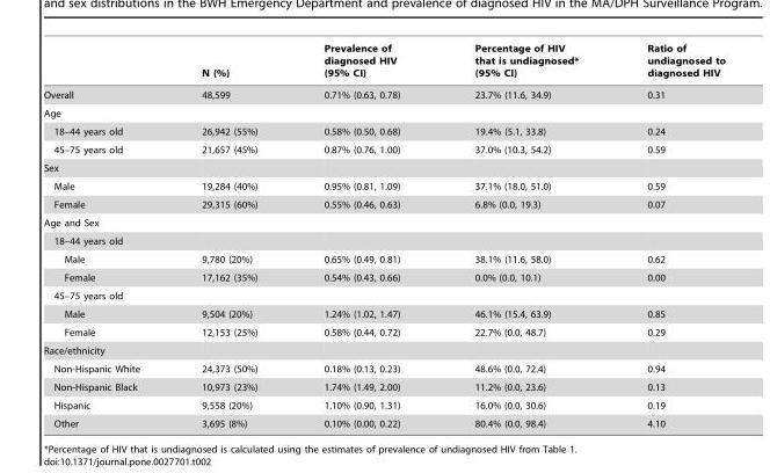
<table><thead><tr><td></td><td>N (%)</td><td>Prevalence of diagnosed HIV (95% CI)</td><td>Percentage of HIV that is undiagnosed* (95% CI)</td><td>Ratio of undiagnosed to diagnosed HIV</td></tr></thead><tbody><tr><td>Overall</td><td>48,599</td><td>0.71% (0.63, 0.78)</td><td>23.7% (11.6, 34.9)</td><td>0.31</td></tr><tr><td colspan="5">Age</td></tr><tr><td>18–44 years old</td><td>26,942 (55%)</td><td>0.58% (0.50, 0.68)</td><td>19.4% (5.1, 33.8)</td><td>0.24</td></tr><tr><td>45–75 years old</td><td>21,657 (45%)</td><td>0.87% (0.76, 1.00)</td><td>37.0% (10.3, 54.2)</td><td>0.59</td></tr><tr><td colspan="5">Sex</td></tr><tr><td>Male</td><td>19,284 (40%)</td><td>0.95% (0.81, 1.09)</td><td>37.1% (18.0, 51.0)</td><td>0.59</td></tr><tr><td>Female</td><td>29,315 (60%)</td><td>0.55% (0.46, 0.63)</td><td>6.8% (0.0, 19.3)</td><td>0.07</td></tr><tr><td colspan="5">Age and Sex</td></tr><tr><td colspan="5">18–44 years old</td></tr><tr><td>Male</td><td>9,780 (20%)</td><td>0.65% (0.49, 0.81)</td><td>38.1% (11.6, 58.0)</td><td>0.62</td></tr><tr><td>Female</td><td>17,162 (35%)</td><td>0.54% (0.43, 0.66)</td><td>0.0% (0.0, 10.1)</td><td>0.00</td></tr><tr><td colspan="5">45–75 years old</td></tr><tr><td>Male</td><td>9,504 (20%)</td><td>1.24% (1.02, 1.47)</td><td>46.1% (15.4, 63.9)</td><td>0.85</td></tr><tr><td>Female</td><td>12,153 (25%)</td><td>0.58% (0.44, 0.72)</td><td>22.7% (0.0, 48.7)</td><td>0.29</td></tr><tr><td colspan="5">Race/ethnicity</td></tr><tr><td>Non-Hispanic White</td><td>24,373 (50%)</td><td>0.18% (0.13, 0.23)</td><td>48.6% (0.0, 72.4)</td><td>0.94</td></tr><tr><td>Non-Hispanic Black</td><td>10,973 (23%)</td><td>1.74% (1.49, 2.00)</td><td>11.2% (0.0, 23.6)</td><td>0.13</td></tr><tr><td>Hispanic</td><td>9,558 (20%)</td><td>1.10% (0.90, 1.31)</td><td>16.0% (0.0, 30.6)</td><td>0.19</td></tr><tr><td>Other</td><td>3,695 (8%)</td><td>0.10% (0.00, 0.22)</td><td>80.4% (0.0, 98.4)</td><td>4.10</td></tr></tbody></table>